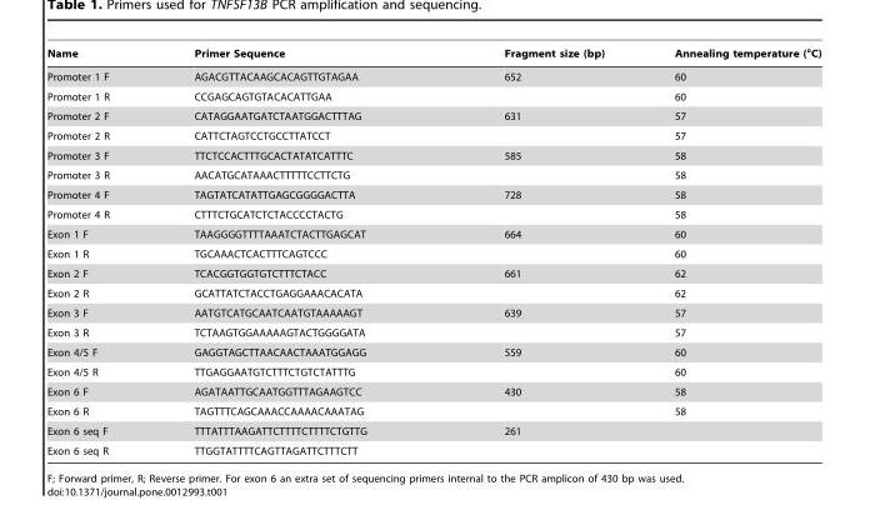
<table><thead><tr><td>Name</td><td>Primer Sequence</td><td>Fragment size (bp)</td><td>Annealing temperature (°C)</td></tr></thead><tbody><tr><td>Promoter 1 F</td><td>AGACGTTACAAGCACAGTTGTAGAA</td><td>652</td><td>60</td></tr><tr><td>Promoter 1 R</td><td>CCGAGCAGTGTACACATTGAA</td><td></td><td>60</td></tr><tr><td>Promoter 2 F</td><td>CATAGGAATGATCTAATGGACTTTAG</td><td>631</td><td>57</td></tr><tr><td>Promoter 2 R</td><td>CATTCTAGTCCTGCCTTATCCT</td><td></td><td>57</td></tr><tr><td>Promoter 3 F</td><td>TTCTCCACTTTGCACTATATCATTTC</td><td>585</td><td>58</td></tr><tr><td>Promoter 3 R</td><td>AACATGCATAAACTTTTTCCTTCTG</td><td></td><td>58</td></tr><tr><td>Promoter 4 F</td><td>TAGTATCATATTGAGCGGGGACTTA</td><td>728</td><td>58</td></tr><tr><td>Promoter 4 R</td><td>CTTTCTGCATCTCTACCCCTACTG</td><td></td><td>58</td></tr><tr><td>Exon 1 F</td><td>TAAGGGGTTTTAAATCTACTTGAGCAT</td><td>664</td><td>60</td></tr><tr><td>Exon 1 R</td><td>TGCAAACTCACTTTCAGTCCC</td><td></td><td>60</td></tr><tr><td>Exon 2 F</td><td>TCACGGTGGTGTCTTTCTACC</td><td>661</td><td>62</td></tr><tr><td>Exon 2 R</td><td>GCATTATCTACCTGAGGAAACACATA</td><td></td><td>62</td></tr><tr><td>Exon 3 F</td><td>AATGTCATGCAATCAATGTAAAAAGT</td><td>639</td><td>57</td></tr><tr><td>Exon 3 R</td><td>TCTAAGTGGAAAAAGTACTGGGGATA</td><td></td><td>57</td></tr><tr><td>Exon 4/5 F</td><td>GAGGTAGCTTAACAACTAAATGGAGG</td><td>559</td><td>60</td></tr><tr><td>Exon 4/5 R</td><td>TTGAGGAATGTCTTTCTGTCTATTTG</td><td></td><td>60</td></tr><tr><td>Exon 6 F</td><td>AGATAATTGCAATGGTTTAGAAGTCC</td><td>430</td><td>58</td></tr><tr><td>Exon 6 R</td><td>TAGTTTCAGCAAACCAAAACAAATAG</td><td></td><td>58</td></tr><tr><td>Exon 6 seq F</td><td>TTTATTTAAGATTCTTTTCTTTTCTGTTG</td><td>261</td><td></td></tr><tr><td>Exon 6 seq R</td><td>TTGGTATTTTCAGTTAGATTCTTTCTT</td><td></td><td></td></tr></tbody></table>